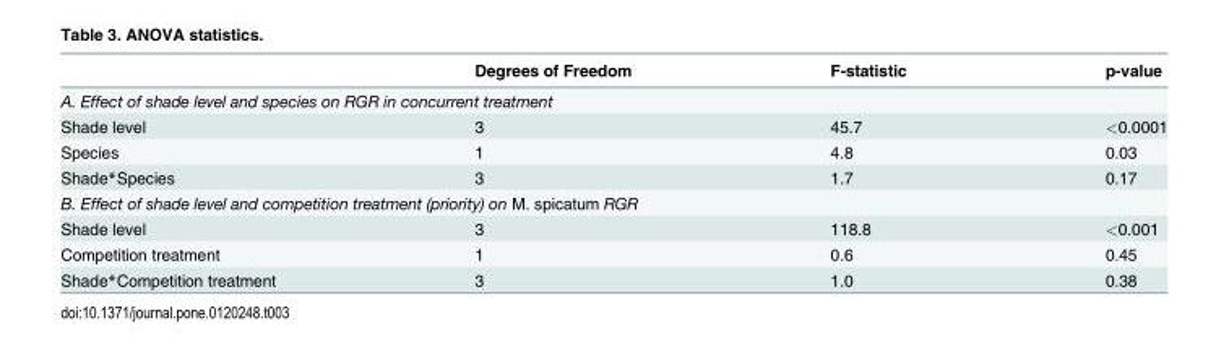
<table><thead><tr><td></td><td>Degrees of Freedom</td><td>F-statistic</td><td>p-value</td></tr></thead><tbody><tr><td colspan="4">A. Effect of shade level and species on RGR in concurrent treatment</td></tr><tr><td>Shade level</td><td>3</td><td>45.7</td><td>&lt;0.0001</td></tr><tr><td>Species</td><td>1</td><td>4.8</td><td>0.03</td></tr><tr><td>Shade*Species</td><td>3</td><td>1.7</td><td>0.17</td></tr><tr><td colspan="4">B. Effect of shade level and competition treatment (priority) on M. spicatum RGR</td></tr><tr><td>Shade level</td><td>3</td><td>118.8</td><td>&lt;0.001</td></tr><tr><td>Competition treatment</td><td>1</td><td>0.6</td><td>0.45</td></tr><tr><td>Shade*Competition treatment</td><td>3</td><td>1.0</td><td>0.38</td></tr></tbody></table>